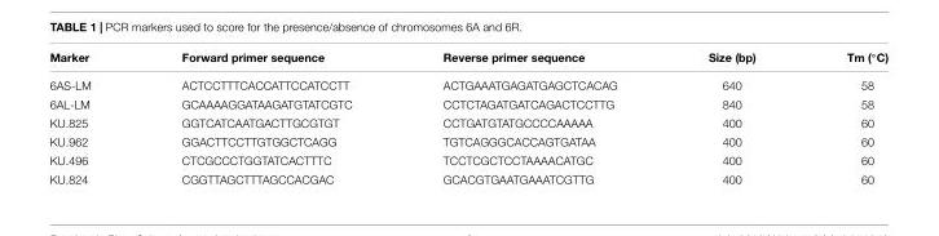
<table><thead><tr><td>Marker</td><td>Forward primer sequence</td><td>Reverse primer sequence</td><td>Size (bp)</td><td>Tm (◦C)</td></tr></thead><tbody><tr><td>6AS-LM</td><td>ACTCCTTTCACCATTCCATCCTT</td><td>ACTGAAATGAGATGAGCTCACAG</td><td>640</td><td>58</td></tr><tr><td>6AL-LM</td><td>GCAAAAGGATAAGATGTATCGTC</td><td>CCTCTAGATGATCAGACTCCTTG</td><td>840</td><td>58</td></tr><tr><td>KU.825</td><td>GGTCATCAATGACTTGCGTGT</td><td>CCTGATGTATGCCCCAAAAA</td><td>400</td><td>60</td></tr><tr><td>KU.962</td><td>GGACTTCCTTGTGGCTCAGG</td><td>TGTCAGGGCACCAGTGATAA</td><td>400</td><td>60</td></tr><tr><td>KU.496</td><td>CTCGCCCTGGTATCACTTTC</td><td>TCCTCGCTCCTAAAACATGC</td><td>400</td><td>60</td></tr><tr><td>KU.824</td><td>CGGTTAGCTTTAGCCACGAC</td><td>GCACGTGAATGAAATCGTTG</td><td>400</td><td>60</td></tr></tbody></table>